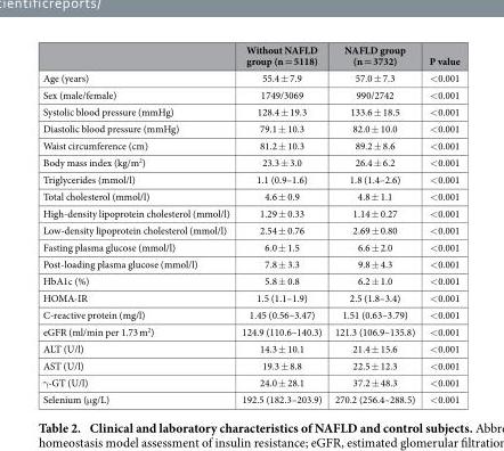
<table><thead><tr><td></td><td>Without NAFLD group (n = 5118)</td><td>NAFLD group (n = 3732)</td><td>P value</td></tr></thead><tbody><tr><td>Age (years)</td><td>55.4 ± 7.9</td><td>57.0 ± 7.3</td><td>&lt; 0.001</td></tr><tr><td>Sex (male/female)</td><td>1749/3069</td><td>990/2742</td><td>&lt; 0.001</td></tr><tr><td>Systolic blood pressure (mmHg)</td><td>128.4 ± 19.3</td><td>133.6 ± 18.5</td><td>&lt; 0.001</td></tr><tr><td>Diastolic blood pressure (mmHg)</td><td>79.1 ± 10.3</td><td>82.0 ± 10.0</td><td>&lt; 0.001</td></tr><tr><td>Waist circumference (cm)</td><td>81.2 ± 10.3</td><td>89.2 ± 8.6</td><td>&lt; 0.001</td></tr><tr><td>Body mass index (kg/m<sup>2</sup>)</td><td>23.3 ± 3.0</td><td>26.4 ± 6.2</td><td>&lt; 0.001</td></tr><tr><td>Triglycerides (mmol/l)</td><td>1.1 (0.9–1.6)</td><td>1.8 (1.4–2.6)</td><td>&lt; 0.001</td></tr><tr><td>Total cholesterol (mmol/l)</td><td>4.6 ± 0.9</td><td>4.8 ± 1.1</td><td>&lt; 0.001</td></tr><tr><td>High-density lipoprotein cholesterol (mmol/l)</td><td>1.29 ± 0.33</td><td>1.14 ± 0.27</td><td>&lt; 0.001</td></tr><tr><td>Low-density lipoprotein cholesterol (mmol/l)</td><td>2.54 ± 0.76</td><td>2.69 ± 0.80</td><td>&lt; 0.001</td></tr><tr><td>Fasting plasma glucose (mmol/l)</td><td>6.0 ± 1.5</td><td>6.6 ± 2.0</td><td>&lt; 0.001</td></tr><tr><td>Post-loading plasma glucose (mmol/l)</td><td>7.8 ± 3.3</td><td>9.8 ± 4.3</td><td>&lt; 0.001</td></tr><tr><td>HbA1c (%)</td><td>5.8 ± 0.8</td><td>6.2 ± 1.0</td><td>&lt; 0.001</td></tr><tr><td>HOMA-IR</td><td>1.5 (1.1–1.9)</td><td>2.5 (1.8–3.4)</td><td>&lt; 0.001</td></tr><tr><td>C-reactive protein (mg/l)</td><td>1.45 (0.56–3.47)</td><td>1.51 (0.63–3.79)</td><td>&lt; 0.001</td></tr><tr><td>eGFR (ml/min per 1.73 m<sup>2</sup>)</td><td>124.9 (110.6–140.3)</td><td>121.3 (106.9–135.8)</td><td>&lt; 0.001</td></tr><tr><td>ALT (U/l)</td><td>14.3 ± 10.1</td><td>21.4 ± 15.6</td><td>&lt; 0.001</td></tr><tr><td>AST (U/l)</td><td>19.3 ± 8.8</td><td>22.5 ± 12.3</td><td>&lt; 0.001</td></tr><tr><td>γ -GT (U/l)</td><td>24.0 ± 28.1</td><td>37.2 ± 48.3</td><td>&lt; 0.001</td></tr><tr><td>Selenium (μ g/L)</td><td>192.5 (182.3–203.9)</td><td>270.2 (256.4–288.5)</td><td>&lt; 0.001</td></tr></tbody></table>